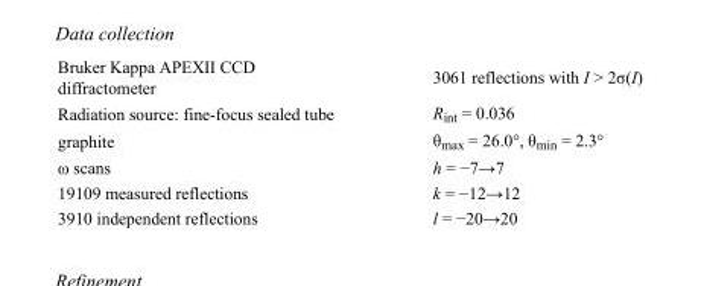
<table><tbody><tr><td>Bruker Kappa APEXII CCD diffractometer</td><td>3061 reflections with I &gt; 2σ(I)</td></tr><tr><td>Radiation source: fine-focus sealed tube</td><td>R<sub>int</sub> = 0.036</td></tr><tr><td>graphite</td><td>θ<sub>max</sub> = 26.0°, θ<sub>min</sub> = 2.3°</td></tr><tr><td>ω scans</td><td>h = −7→7</td></tr><tr><td>19109 measured reflections</td><td>k = −12→12</td></tr><tr><td>3910 independent reflections</td><td>l = −20→20</td></tr></tbody></table>